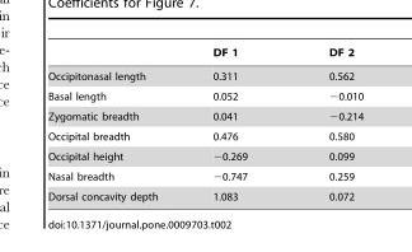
<table><thead><tr><td></td><td>DF 1</td><td>DF 2</td></tr></thead><tbody><tr><td>Occipitonasal length</td><td>0.311</td><td>0.562</td></tr><tr><td>Basal length</td><td>0.052</td><td>−0.010</td></tr><tr><td>Zygomatic breadth</td><td>0.041</td><td>−0.214</td></tr><tr><td>Occipital breadth</td><td>0.476</td><td>0.580</td></tr><tr><td>Occipital height</td><td>−0.269</td><td>0.099</td></tr><tr><td>Nasal breadth</td><td>−0.747</td><td>0.259</td></tr><tr><td>Dorsal concavity depth</td><td>1.083</td><td>0.072</td></tr></tbody></table>